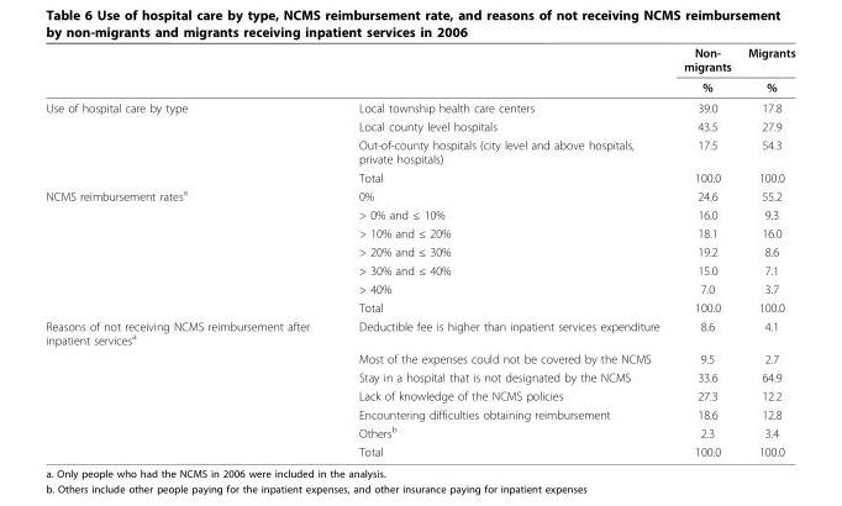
<table><thead><tr><td></td><td></td><td>Non- migrants</td><td>Migrants</td></tr></thead><tbody><tr><td></td><td></td><td>%</td><td>%</td></tr><tr><td rowspan="4">Use of hospital care by type</td><td>Local township health care centers</td><td>39.0</td><td>17.8</td></tr><tr><td>Local county level hospitals</td><td>43.5</td><td>27.9</td></tr><tr><td>Out-of-county hospitals (city level and above hospitals, private hospitals)</td><td>17.5</td><td>54.3</td></tr><tr><td>Total</td><td>100.0</td><td>100.0</td></tr><tr><td rowspan="7">NCMS reimbursement rates<sup>a</sup></td><td>0%</td><td>24.6</td><td>55.2</td></tr><tr><td>&gt; 0% and ≤ 10%</td><td>16.0</td><td>9.3</td></tr><tr><td>&gt; 10% and ≤ 20%</td><td>18.1</td><td>16.0</td></tr><tr><td>&gt; 20% and ≤ 30%</td><td>19.2</td><td>8.6</td></tr><tr><td>&gt; 30% and ≤ 40%</td><td>15.0</td><td>7.1</td></tr><tr><td>&gt; 40%</td><td>7.0</td><td>3.7</td></tr><tr><td>Total</td><td>100.0</td><td>100.0</td></tr><tr><td rowspan="7">Reasons of not receiving NCMS reimbursement after inpatient services<sup>a</sup></td><td>Deductible fee is higher than inpatient services expenditure</td><td>8.6</td><td>4.1</td></tr><tr><td>Most of the expenses could not be covered by the NCMS</td><td>9.5</td><td>2.7</td></tr><tr><td>Stay in a hospital that is not designated by the NCMS</td><td>33.6</td><td>64.9</td></tr><tr><td>Lack of knowledge of the NCMS policies</td><td>27.3</td><td>12.2</td></tr><tr><td>Encountering difficulties obtaining reimbursement</td><td>18.6</td><td>12.8</td></tr><tr><td>Others<sup>b</sup></td><td>2.3</td><td>3.4</td></tr><tr><td>Total</td><td>100.0</td><td>100.0</td></tr></tbody></table>